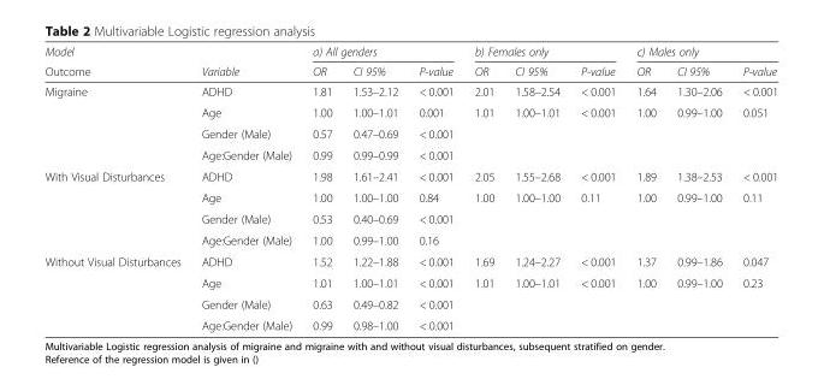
<table><thead><tr><td rowspan="2">Model Outcome</td><td rowspan="2">Variable</td><td colspan="3">a) All genders</td><td colspan="3">b) Females only</td><td colspan="3">c) Males only</td></tr><tr><td>OR</td><td>CI 95%</td><td>P-value</td><td>OR</td><td>CI 95%</td><td>P-value</td><td>OR</td><td>CI 95%</td><td>P-value</td></tr></thead><tbody><tr><td rowspan="4">Migraine</td><td>ADHD</td><td>1.81</td><td>1.53–2.12</td><td>&lt; 0.001</td><td>2.01</td><td>1.58–2.54</td><td>&lt; 0.001</td><td>1.64</td><td>1.30–2.06</td><td>&lt; 0.001</td></tr><tr><td>Age</td><td>1.00</td><td>1.00–1.01</td><td>0.001</td><td>1.01</td><td>1.00–1.01</td><td>&lt; 0.001</td><td>1.00</td><td>0.99–1.00</td><td>0.051</td></tr><tr><td>Gender (Male)</td><td>0.57</td><td>0.47–0.69</td><td>&lt; 0.001</td><td></td><td></td><td></td><td></td><td></td><td></td></tr><tr><td>Age:Gender (Male)</td><td>0.99</td><td>0.99–0.99</td><td>&lt; 0.001</td><td></td><td></td><td></td><td></td><td></td><td></td></tr><tr><td rowspan="4">With Visual Disturbances</td><td>ADHD</td><td>1.98</td><td>1.61–2.41</td><td>&lt; 0.001</td><td>2.05</td><td>1.55–2.68</td><td>&lt; 0.001</td><td>1.89</td><td>1.38–2.53</td><td>&lt; 0.001</td></tr><tr><td>Age</td><td>1.00</td><td>1.00–1.00</td><td>0.84</td><td>1.00</td><td>1.00–1.00</td><td>0.11</td><td>1.00</td><td>0.99–1.00</td><td>0.11</td></tr><tr><td>Gender (Male)</td><td>0.53</td><td>0.40–0.69</td><td>&lt; 0.001</td><td></td><td></td><td></td><td></td><td></td><td></td></tr><tr><td>Age:Gender (Male)</td><td>1.00</td><td>0.99–1.00</td><td>0.16</td><td></td><td></td><td></td><td></td><td></td><td></td></tr><tr><td rowspan="4">Without Visual Disturbances</td><td>ADHD</td><td>1.52</td><td>1.22–1.88</td><td>&lt; 0.001</td><td>1.69</td><td>1.24–2.27</td><td>&lt; 0.001</td><td>1.37</td><td>0.99–1.86</td><td>0.047</td></tr><tr><td>Age</td><td>1.01</td><td>1.00–1.01</td><td>&lt; 0.001</td><td>1.01</td><td>1.00–1.01</td><td>&lt; 0.001</td><td>1.00</td><td>0.99–1.00</td><td>0.23</td></tr><tr><td>Gender (Male)</td><td>0.63</td><td>0.49–0.82</td><td>&lt; 0.001</td><td></td><td></td><td></td><td></td><td></td><td></td></tr><tr><td>Age:Gender (Male)</td><td>0.99</td><td>0.98–1.00</td><td>&lt; 0.001</td><td></td><td></td><td></td><td></td><td></td><td></td></tr></tbody></table>